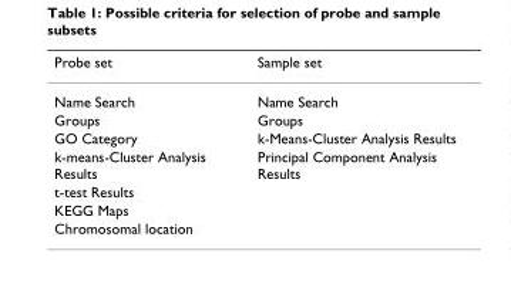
<table><thead><tr><td>Probe set</td><td>Sample set</td></tr></thead><tbody><tr><td>Name Search</td><td>Name Search</td></tr><tr><td>Groups</td><td>Groups</td></tr><tr><td>GO Category</td><td>k-Means-Cluster Analysis Results</td></tr><tr><td>k-means-Cluster Analysis Results</td><td>Principal Component Analysis Results</td></tr><tr><td colspan="2">t-test Results</td></tr><tr><td colspan="2">KEGG Maps</td></tr><tr><td>Chromosomal location</td><td></td></tr></tbody></table>